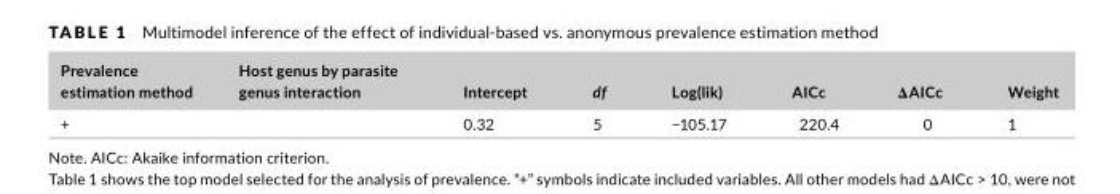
<table><thead><tr><td>Prevalence estimation method</td><td>Host genus by parasite genus interaction</td><td>Intercept</td><td>df</td><td>Log(lik)</td><td>AICc</td><td>ΔAICc</td><td>Weight</td></tr></thead><tbody><tr><td>+</td><td></td><td>0.32</td><td>5</td><td>−105.17</td><td>220.4</td><td>0</td><td>1</td></tr></tbody></table>